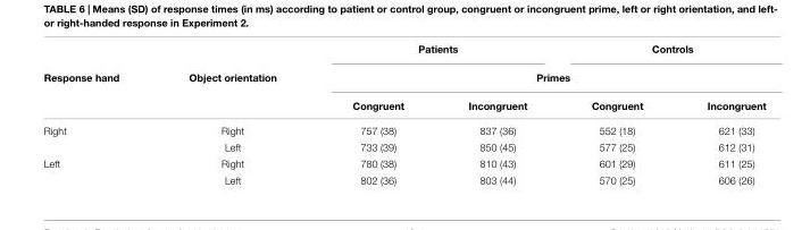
<table><thead><tr><td rowspan="3">Response hand</td><td rowspan="3">Object orientation</td><td colspan="2">Patients</td><td colspan="2">Controls</td></tr><tr><td colspan="4">Primes</td></tr><tr><td>Congruent</td><td>Incongruent</td><td>Congruent</td><td>Incongruent</td></tr></thead><tbody><tr><td rowspan="2">Right</td><td>Right</td><td>757 (38)</td><td>837 (36)</td><td>552 (18)</td><td>621 (33)</td></tr><tr><td>Left</td><td>733 (39)</td><td>850 (45)</td><td>577 (25)</td><td>612 (31)</td></tr><tr><td rowspan="2">Left</td><td>Right</td><td>780 (38)</td><td>810 (43)</td><td>601 (29)</td><td>611 (25)</td></tr><tr><td>Left</td><td>802 (36)</td><td>803 (44)</td><td>570 (25)</td><td>606 (26)</td></tr></tbody></table>